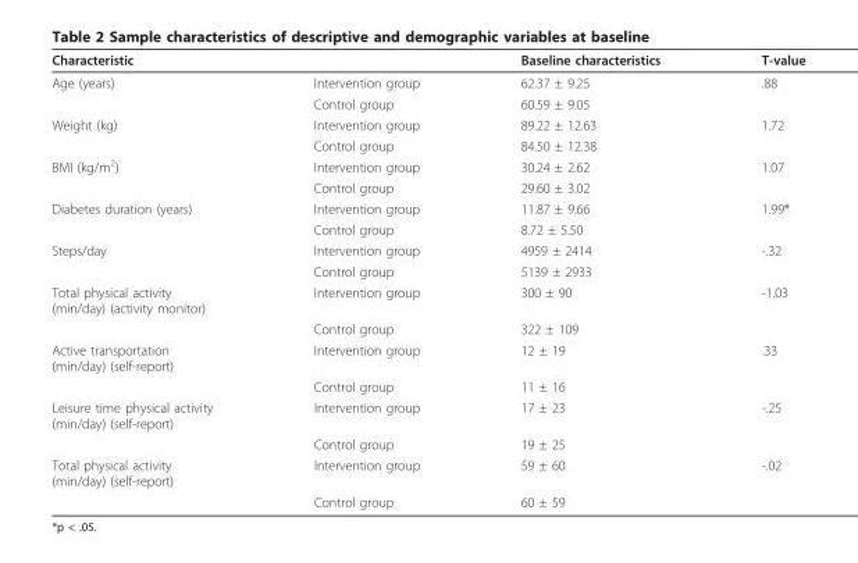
<table><thead><tr><td>Characteristic</td><td></td><td>Baseline characteristics</td><td>T-value</td></tr></thead><tbody><tr><td rowspan="2">Age (years)</td><td>Intervention group</td><td>62.37 ± 9.25</td><td>.88</td></tr><tr><td>Control group</td><td>60.59 ± 9.05</td><td></td></tr><tr><td rowspan="2">Weight (kg)</td><td>Intervention group</td><td>89.22 ± 12.63</td><td>1.72</td></tr><tr><td>Control group</td><td>84.50 ± 12.38</td><td></td></tr><tr><td rowspan="2">BMI (kg/m<sup>2</sup>)</td><td>Intervention group</td><td>30.24 ± 2.62</td><td>1.07</td></tr><tr><td>Control group</td><td>29.60 ± 3.02</td><td></td></tr><tr><td rowspan="2">Diabetes duration (years)</td><td>Intervention group</td><td>11.87 ± 9.66</td><td>1.99*</td></tr><tr><td>Control group</td><td>8.72 ± 5.50</td><td></td></tr><tr><td rowspan="2">Steps/day</td><td>Intervention group</td><td>4959 ± 2414</td><td>-.32</td></tr><tr><td>Control group</td><td>5139 ± 2933</td><td></td></tr><tr><td rowspan="2">Total physical activity (min/day) (activity monitor)</td><td>Intervention group</td><td>300 ± 90</td><td>-1.03</td></tr><tr><td>Control group</td><td>322 ± 109</td><td></td></tr><tr><td rowspan="2">Active transportation (min/day) (self-report)</td><td>Intervention group</td><td>12 ± 19</td><td>.33</td></tr><tr><td>Control group</td><td>11 ± 16</td><td></td></tr><tr><td rowspan="2">Leisure time physical activity (min/day) (self-report)</td><td>Intervention group</td><td>17 ± 23</td><td>-.25</td></tr><tr><td>Control group</td><td>19 ± 25</td><td></td></tr><tr><td rowspan="2">Total physical activity (min/day) (self-report)</td><td>Intervention group</td><td>59 ± 60</td><td>-.02</td></tr><tr><td>Control group</td><td>60 ± 59</td><td></td></tr></tbody></table>